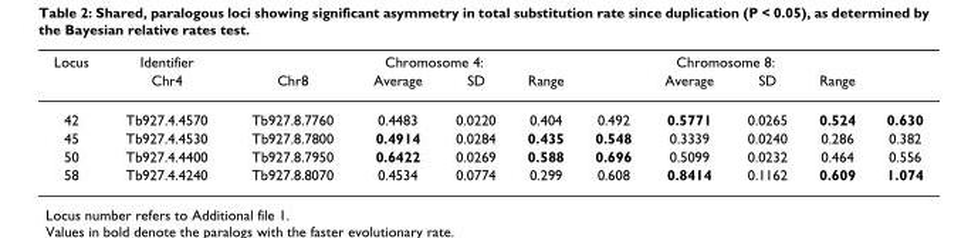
<table><thead><tr><td rowspan="2">Locus</td><td rowspan="2">Identifier Chr4</td><td rowspan="2">Chr8</td><td colspan="2">Chromosome 4:</td><td rowspan="2">Range</td><td rowspan="2"></td><td colspan="2">Chromosome 8:</td><td rowspan="2">Range</td><td rowspan="2"></td></tr><tr><td>Average</td><td>SD</td><td>Average</td><td>SD</td></tr></thead><tbody><tr><td>42</td><td>Tb927.4.4570</td><td>Tb927.8.7760</td><td>0.4483</td><td>0.0220</td><td>0.404</td><td>0.492</td><td>0.5771</td><td>0.0265</td><td>0.524</td><td>0.630</td></tr><tr><td>45</td><td>Tb927.4.4530</td><td>Tb927.8.7800</td><td>0.4914</td><td>0.0284</td><td>0.435</td><td>0.548</td><td>0.3339</td><td>0.0240</td><td>0.286</td><td>0.382</td></tr><tr><td>50</td><td>Tb927.4.4400</td><td>Tb927.8.7950</td><td>0.6422</td><td>0.0269</td><td>0.588</td><td>0.696</td><td>0.5099</td><td>0.0232</td><td>0.464</td><td>0.556</td></tr><tr><td>58</td><td>Tb927.4.4240</td><td>Tb927.8.8070</td><td>0.4534</td><td>0.0774</td><td>0.299</td><td>0.608</td><td>0.8414</td><td>0.1162</td><td>0.609</td><td>1.074</td></tr></tbody></table>